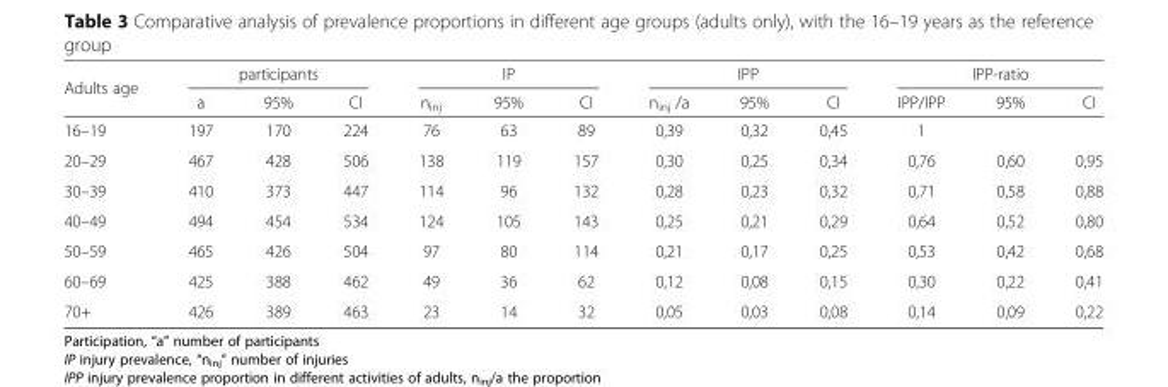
<table><thead><tr><td rowspan="2">Adults age</td><td colspan="3">participants</td><td colspan="3">IP</td><td colspan="3">IPP</td><td colspan="3">IPP-ratio</td></tr><tr><td>a</td><td>95%</td><td>CI</td><td>n<sub>inj</sub></td><td>95%</td><td>CI</td><td>n<sub>inj</sub> /a</td><td>95%</td><td>CI</td><td>IPP/IPP</td><td>95%</td><td>CI</td></tr></thead><tbody><tr><td>16–19</td><td>197</td><td>170</td><td>224</td><td>76</td><td>63</td><td>89</td><td>0,39</td><td>0,32</td><td>0,45</td><td>1</td><td></td><td></td></tr><tr><td>20–29</td><td>467</td><td>428</td><td>506</td><td>138</td><td>119</td><td>157</td><td>0,30</td><td>0,25</td><td>0,34</td><td>0,76</td><td>0,60</td><td>0,95</td></tr><tr><td>30–39</td><td>410</td><td>373</td><td>447</td><td>114</td><td>96</td><td>132</td><td>0,28</td><td>0,23</td><td>0,32</td><td>0,71</td><td>0,58</td><td>0,88</td></tr><tr><td>40–49</td><td>494</td><td>454</td><td>534</td><td>124</td><td>105</td><td>143</td><td>0,25</td><td>0,21</td><td>0,29</td><td>0,64</td><td>0,52</td><td>0,80</td></tr><tr><td>50–59</td><td>465</td><td>426</td><td>504</td><td>97</td><td>80</td><td>114</td><td>0,21</td><td>0,17</td><td>0,25</td><td>0,53</td><td>0,42</td><td>0,68</td></tr><tr><td>60–69</td><td>425</td><td>388</td><td>462</td><td>49</td><td>36</td><td>62</td><td>0,12</td><td>0,08</td><td>0,15</td><td>0,30</td><td>0,22</td><td>0,41</td></tr><tr><td>70+</td><td>426</td><td>389</td><td>463</td><td>23</td><td>14</td><td>32</td><td>0,05</td><td>0,03</td><td>0,08</td><td>0,14</td><td>0,09</td><td>0,22</td></tr></tbody></table>